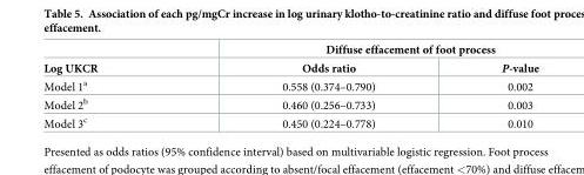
<table><thead><tr><td rowspan="2">Log UKCR</td><td colspan="2">Diffuse effacement of foot process</td></tr><tr><td>Odds ratio</td><td>P-value</td></tr></thead><tbody><tr><td>Model 1<sup>a</sup></td><td>0.558 (0.374–0.790)</td><td>0.002</td></tr><tr><td>Model 2<sup>b</sup></td><td>0.460 (0.256–0.733)</td><td>0.003</td></tr><tr><td>Model 3<sup>c</sup></td><td>0.450 (0.224–0.778)</td><td>0.010</td></tr></tbody></table>